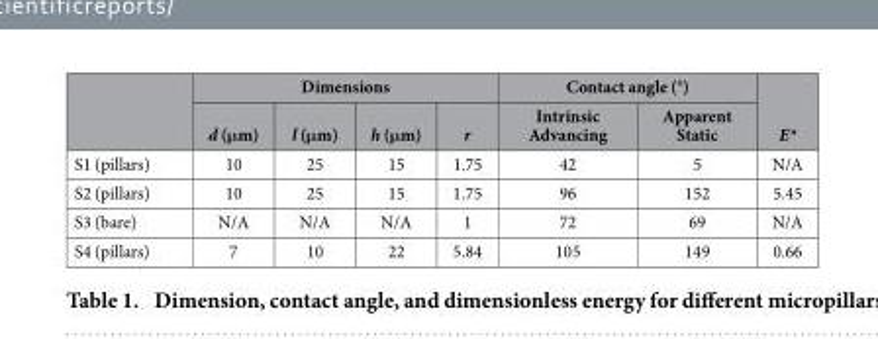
<table><thead><tr><td rowspan="2"></td><td colspan="4">Dimensions</td><td colspan="2">Contact angle (°)</td><td rowspan="2">E*</td></tr><tr><td>d (μm)</td><td>l (μm)</td><td>h (μm)</td><td>r</td><td>Intrinsic Advancing</td><td>Apparent Static</td></tr></thead><tbody><tr><td>S1 (pillars)</td><td>10</td><td>25</td><td>15</td><td>1.75</td><td>42</td><td>5</td><td>N/A</td></tr><tr><td>S2 (pillars)</td><td>10</td><td>25</td><td>15</td><td>1.75</td><td>96</td><td>152</td><td>5.45</td></tr><tr><td>S3 (bare)</td><td>N/A</td><td>N/A</td><td>N/A</td><td>1</td><td>72</td><td>69</td><td>N/A</td></tr><tr><td>S4 (pillars)</td><td>7</td><td>10</td><td>22</td><td>5.84</td><td>105</td><td>149</td><td>0.66</td></tr></tbody></table>